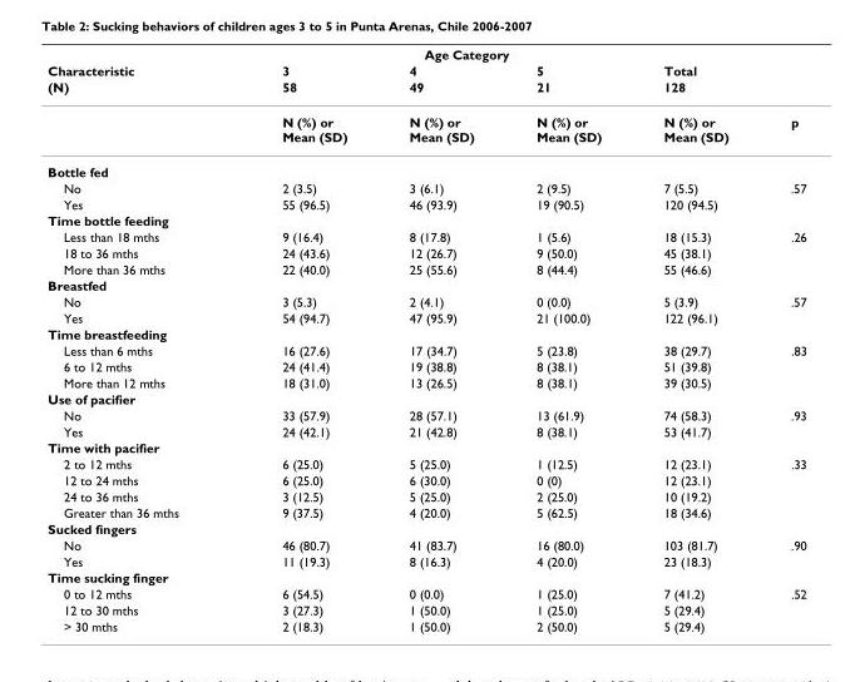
<table><thead><tr><td rowspan="3">Characteristic (N)</td><td colspan="3">Age Category</td><td rowspan="3">Total 128</td><td rowspan="3"></td></tr><tr><td rowspan="2">3 58</td><td rowspan="2">4 49</td><td rowspan="2">5 21</td></tr><tr></tr></thead><tbody><tr><td></td><td>N (%) or Mean (SD)</td><td>N (%) or Mean (SD)</td><td>N (%) or Mean (SD)</td><td>N (%) or Mean (SD)</td><td>p</td></tr><tr><td colspan="6">Bottle fed</td></tr><tr><td>No</td><td>2 (3.5)</td><td>3 (6.1)</td><td>2 (9.5)</td><td>7 (5.5)</td><td>.57</td></tr><tr><td>Yes</td><td>55 (96.5)</td><td>46 (93.9)</td><td>19 (90.5)</td><td>120 (94.5)</td><td></td></tr><tr><td colspan="6">Time bottle feeding</td></tr><tr><td>Less than 18 mths</td><td>9 (16.4)</td><td>8 (17.8)</td><td>1 (5.6)</td><td>18 (15.3)</td><td>.26</td></tr><tr><td>18 to 36 mths</td><td>24 (43.6)</td><td>12 (26.7)</td><td>9 (50.0)</td><td>45 (38.1)</td><td></td></tr><tr><td>More than 36 mths</td><td>22 (40.0)</td><td>25 (55.6)</td><td>8 (44.4)</td><td>55 (46.6)</td><td></td></tr><tr><td colspan="6">Breastfed</td></tr><tr><td>No</td><td>3 (5.3)</td><td>2 (4.1)</td><td>0 (0.0)</td><td>5 (3.9)</td><td>.57</td></tr><tr><td>Yes</td><td>54 (94.7)</td><td>47 (95.9)</td><td>21 (100.0)</td><td>122 (96.1)</td><td></td></tr><tr><td colspan="6">Time breastfeeding</td></tr><tr><td>Less than 6 mths</td><td>16 (27.6)</td><td>17 (34.7)</td><td>5 (23.8)</td><td>38 (29.7)</td><td>.83</td></tr><tr><td>6 to 12 mths</td><td>24 (41.4)</td><td>19 (38.8)</td><td>8 (38.1)</td><td>51 (39.8)</td><td></td></tr><tr><td>More than 12 mths</td><td>18 (31.0)</td><td>13 (26.5)</td><td>8 (38.1)</td><td>39 (30.5)</td><td></td></tr><tr><td colspan="6">Use of pacifier</td></tr><tr><td>No</td><td>33 (57.9)</td><td>28 (57.1)</td><td>13 (61.9)</td><td>74 (58.3)</td><td>.93</td></tr><tr><td>Yes</td><td>24 (42.1)</td><td>21 (42.8)</td><td>8 (38.1)</td><td>53 (41.7)</td><td></td></tr><tr><td colspan="6">Time with pacifier</td></tr><tr><td>2 to 12 mths</td><td>6 (25.0)</td><td>5 (25.0)</td><td>1 (12.5)</td><td>12 (23.1)</td><td>.33</td></tr><tr><td>12 to 24 mths</td><td>6 (25.0)</td><td>6 (30.0)</td><td>0 (0)</td><td>12 (23.1)</td><td></td></tr><tr><td>24 to 36 mths</td><td>3 (12.5)</td><td>5 (25.0)</td><td>2 (25.0)</td><td>10 (19.2)</td><td></td></tr><tr><td>Greater than 36 mths</td><td>9 (37.5)</td><td>4 (20.0)</td><td>5 (62.5)</td><td>18 (34.6)</td><td></td></tr><tr><td colspan="6">Sucked fingers</td></tr><tr><td>No</td><td>46 (80.7)</td><td>41 (83.7)</td><td>16 (80.0)</td><td>103 (81.7)</td><td>.90</td></tr><tr><td>Yes</td><td>11 (19.3)</td><td>8 (16.3)</td><td>4 (20.0)</td><td>23 (18.3)</td><td></td></tr><tr><td colspan="6">Time sucking finger</td></tr><tr><td>0 to 12 mths</td><td>6 (54.5)</td><td>0 (0.0)</td><td>1 (25.0)</td><td>7 (41.2)</td><td>.52</td></tr><tr><td>12 to 30 mths</td><td>3 (27.3)</td><td>1 (50.0)</td><td>1 (25.0)</td><td>5 (29.4)</td><td></td></tr><tr><td>&gt; 30 mths</td><td>2 (18.3)</td><td>1 (50.0)</td><td>2 (50.0)</td><td>5 (29.4)</td><td></td></tr></tbody></table>